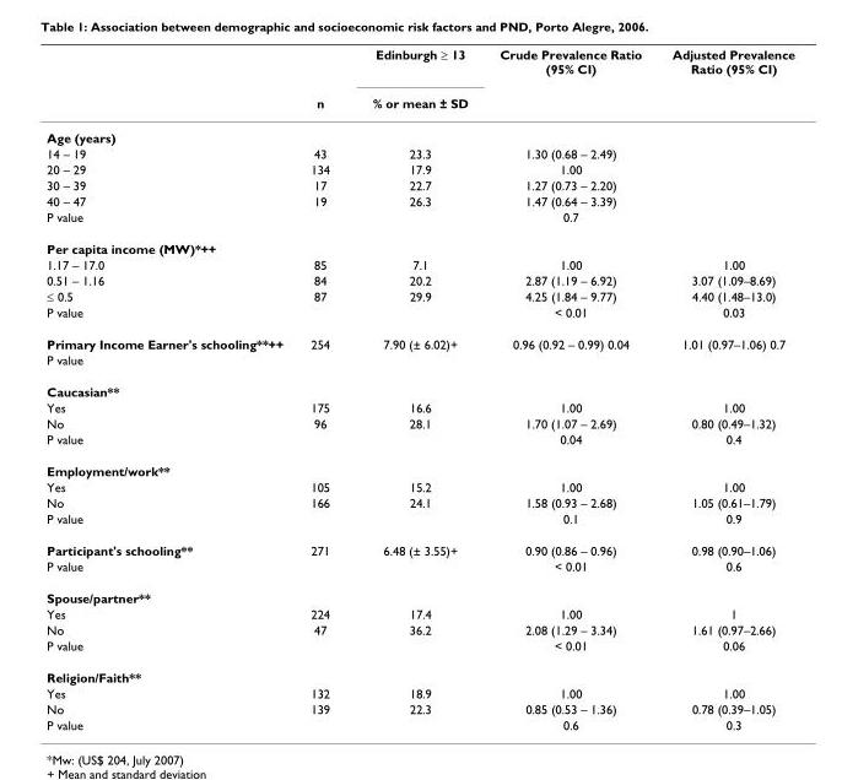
<table><thead><tr><td rowspan="2"></td><td rowspan="2">n</td><td rowspan="2">Edinburgh ≥ 13 % or mean ± SD</td><td rowspan="2">Crude Prevalence Ratio (95% CI)</td><td rowspan="2">Adjusted Prevalence Ratio (95% CI)</td></tr><tr></tr></thead><tbody><tr><td colspan="5">Age (years)</td></tr><tr><td>14 – 19</td><td>43</td><td>23.3</td><td>1.30 (0.68 – 2.49)</td><td></td></tr><tr><td>20 – 29</td><td>134</td><td>17.9</td><td>1.00</td><td></td></tr><tr><td>30 – 39</td><td>17</td><td>22.7</td><td>1.27 (0.73 – 2.20)</td><td></td></tr><tr><td>40 – 47</td><td>19</td><td>26.3</td><td>1.47 (0.64 – 3.39)</td><td></td></tr><tr><td>P value</td><td></td><td></td><td>0.7</td><td></td></tr><tr><td colspan="5">Per capita income (MW)*++</td></tr><tr><td>1.17 – 17.0</td><td>85</td><td>7.1</td><td>1.00</td><td>1.00</td></tr><tr><td>0.51 – 1.16</td><td>84</td><td>20.2</td><td>2.87 (1.19 – 6.92)</td><td>3.07 (1.09–8.69)</td></tr><tr><td>≤ 0.5</td><td>87</td><td>29.9</td><td>4.25 (1.84 – 9.77)</td><td>4.40 (1.48–13.0)</td></tr><tr><td>P value</td><td></td><td></td><td>&lt; 0.01</td><td>0.03</td></tr><tr><td>Primary Income Earner&#x27;s schooling**++</td><td>254</td><td>7.90 (± 6.02)+</td><td>0.96 (0.92 – 0.99) 0.04</td><td>1.01 (0.97–1.06) 0.7</td></tr><tr><td colspan="5">P value</td></tr><tr><td colspan="5">Caucasian**</td></tr><tr><td>Yes</td><td>175</td><td>16.6</td><td>1.00</td><td>1.00</td></tr><tr><td>No</td><td>96</td><td>28.1</td><td>1.70 (1.07 – 2.69)</td><td>0.80 (0.49–1.32)</td></tr><tr><td>P value</td><td></td><td></td><td>0.04</td><td>0.4</td></tr><tr><td colspan="5">Employment/work**</td></tr><tr><td>Yes</td><td>105</td><td>15.2</td><td>1.00</td><td>1.00</td></tr><tr><td>No</td><td>166</td><td>24.1</td><td>1.58 (0.93 – 2.68)</td><td>1.05 (0.61–1.79)</td></tr><tr><td>P value</td><td></td><td></td><td>0.1</td><td>0.9</td></tr><tr><td>Participant&#x27;s schooling**</td><td>271</td><td>6.48 (± 3.55)+</td><td>0.90 (0.86 – 0.96)</td><td>0.98 (0.90–1.06)</td></tr><tr><td>P value</td><td></td><td></td><td>&lt; 0.01</td><td>0.6</td></tr><tr><td colspan="5">Spouse/partner**</td></tr><tr><td>Yes</td><td>224</td><td>17.4</td><td>1.00</td><td>1</td></tr><tr><td>No</td><td>47</td><td>36.2</td><td>2.08 (1.29 – 3.34)</td><td>1.61 (0.97–2.66)</td></tr><tr><td>P value</td><td></td><td></td><td>&lt; 0.01</td><td>0.06</td></tr><tr><td colspan="5">Religion/Faith**</td></tr><tr><td>Yes</td><td>132</td><td>18.9</td><td>1.00</td><td>1.00</td></tr><tr><td>No</td><td>139</td><td>22.3</td><td>0.85 (0.53 – 1.36)</td><td>0.78 (0.39–1.05)</td></tr><tr><td>P value</td><td></td><td></td><td>0.6</td><td>0.3</td></tr></tbody></table>